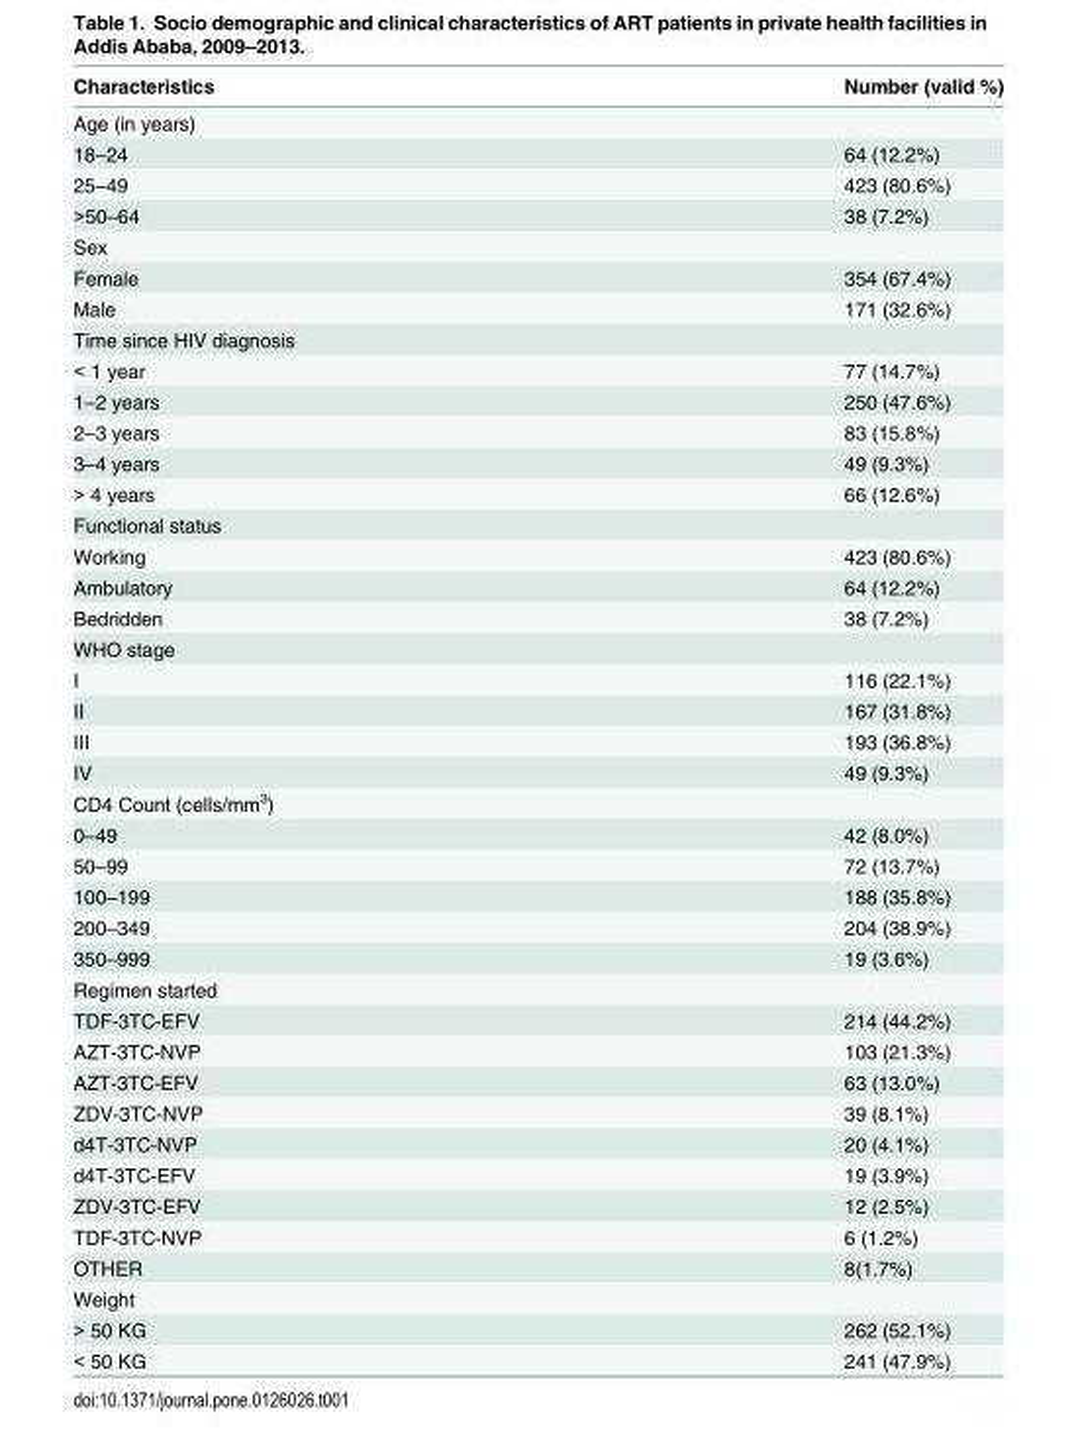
<table><thead><tr><td>Characteristics</td><td>Number (valid %)</td></tr></thead><tbody><tr><td colspan="2">Age (in years)</td></tr><tr><td>18–24</td><td>64 (12.2%)</td></tr><tr><td>25–49</td><td>423 (80.6%)</td></tr><tr><td>&gt;50–64</td><td>38 (7.2%)</td></tr><tr><td colspan="2">Sex</td></tr><tr><td>Female</td><td>354 (67.4%)</td></tr><tr><td>Male</td><td>171 (32.6%)</td></tr><tr><td colspan="2">Time since HIV diagnosis</td></tr><tr><td>&lt; 1 year</td><td>77 (14.7%)</td></tr><tr><td>1–2 years</td><td>250 (47.6%)</td></tr><tr><td>2–3 years</td><td>83 (15.8%)</td></tr><tr><td>3–4 years</td><td>49 (9.3%)</td></tr><tr><td>&gt; 4 years</td><td>66 (12.6%)</td></tr><tr><td colspan="2">Functional status</td></tr><tr><td>Working</td><td>423 (80.6%)</td></tr><tr><td>Ambulatory</td><td>64 (12.2%)</td></tr><tr><td>Bedridden</td><td>38 (7.2%)</td></tr><tr><td colspan="2">WHO stage</td></tr><tr><td>I</td><td>116 (22.1%)</td></tr><tr><td>II</td><td>167 (31.8%)</td></tr><tr><td>III</td><td>193 (36.8%)</td></tr><tr><td>IV</td><td>49 (9.3%)</td></tr><tr><td colspan="2">CD4 Count (cells/mm<sup>3</sup>)</td></tr><tr><td>0–49</td><td>42 (8.0%)</td></tr><tr><td>50–99</td><td>72 (13.7%)</td></tr><tr><td>100–199</td><td>188 (35.8%)</td></tr><tr><td>200–349</td><td>204 (38.9%)</td></tr><tr><td>350–999</td><td>19 (3.6%)</td></tr><tr><td colspan="2">Regimen started</td></tr><tr><td>TDF-3TC-EFV</td><td>214 (44.2%)</td></tr><tr><td>AZT-3TC-NVP</td><td>103 (21.3%)</td></tr><tr><td>AZT-3TC-EFV</td><td>63 (13.0%)</td></tr><tr><td>ZDV-3TC-NVP</td><td>39 (8.1%)</td></tr><tr><td>d4T-3TC-NVP</td><td>20 (4.1%)</td></tr><tr><td>d4T-3TC-EFV</td><td>19 (3.9%)</td></tr><tr><td>ZDV-3TC-EFV</td><td>12 (2.5%)</td></tr><tr><td>TDF-3TC-NVP</td><td>6 (1.2%)</td></tr><tr><td>OTHER</td><td>8(1.7%)</td></tr><tr><td colspan="2">Weight</td></tr><tr><td>&gt; 50 KG</td><td>262 (52.1%)</td></tr><tr><td>&lt; 50 KG</td><td>241 (47.9%)</td></tr></tbody></table>